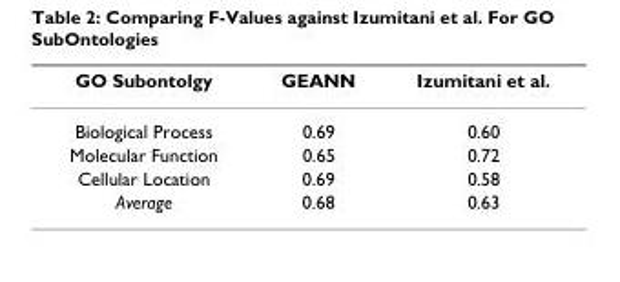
<table><thead><tr><td>GO Subontolgy</td><td>GEANN</td><td>Izumitani et al.</td></tr></thead><tbody><tr><td>Biological Process</td><td>0.69</td><td>0.60</td></tr><tr><td>Molecular Function</td><td>0.65</td><td>0.72</td></tr><tr><td>Cellular Location</td><td>0.69</td><td>0.58</td></tr><tr><td>Average</td><td>0.68</td><td>0.63</td></tr></tbody></table>